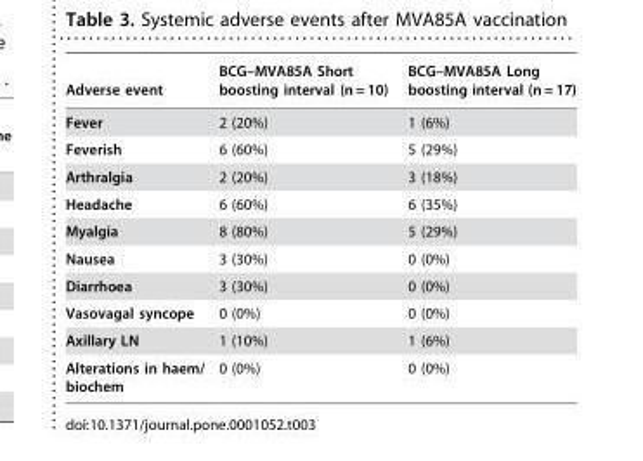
<table><thead><tr><td>Adverse event</td><td>BCG–MVA85A Short boosting interval (n = 10)</td><td>BCG–MVA85A Long boosting interval (n = 17)</td></tr></thead><tbody><tr><td>Fever</td><td>2 (20%)</td><td>1 (6%)</td></tr><tr><td>Feverish</td><td>6 (60%)</td><td>5 (29%)</td></tr><tr><td>Arthralgia</td><td>2 (20%)</td><td>3 (18%)</td></tr><tr><td>Headache</td><td>6 (60%)</td><td>6 (35%)</td></tr><tr><td>Myalgia</td><td>8 (80%)</td><td>5 (29%)</td></tr><tr><td>Nausea</td><td>3 (30%)</td><td>0 (0%)</td></tr><tr><td>Diarrhoea</td><td>3 (30%)</td><td>0 (0%)</td></tr><tr><td>Vasovagal syncope</td><td>0 (0%)</td><td>0 (0%)</td></tr><tr><td>Axillary LN</td><td>1 (10%)</td><td>1 (6%)</td></tr><tr><td>Alterations in haem/ biochem</td><td>0 (0%)</td><td>0 (0%)</td></tr></tbody></table>